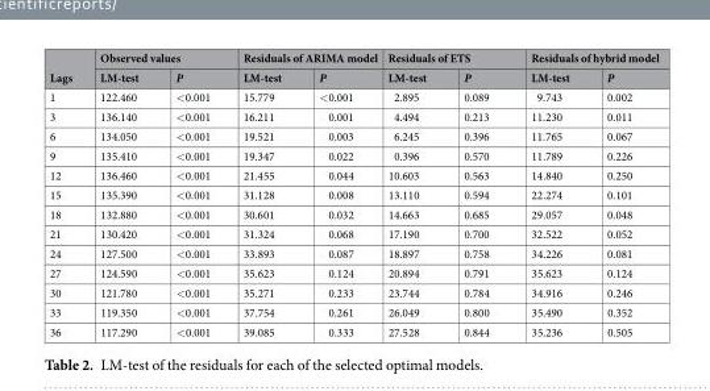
<table><thead><tr><td rowspan="2">Lags</td><td colspan="2">Observed values</td><td colspan="2">Residuals of ARIMA model</td><td colspan="2">Residuals of ETS</td><td colspan="2">Residuals of hybrid model</td></tr><tr><td>LM-test</td><td>P</td><td>LM-test</td><td>P</td><td>LM-test</td><td>P</td><td>LM-test</td><td>P</td></tr></thead><tbody><tr><td>1</td><td>122.460</td><td>&lt;0.001</td><td>15.779</td><td>&lt;0.001</td><td>2.895</td><td>0.089</td><td>9.743</td><td>0.002</td></tr><tr><td>3</td><td>136.140</td><td>&lt;0.001</td><td>16.211</td><td>0.001</td><td>4.494</td><td>0.213</td><td>11.230</td><td>0.011</td></tr><tr><td>6</td><td>134.050</td><td>&lt;0.001</td><td>19.521</td><td>0.003</td><td>6.245</td><td>0.396</td><td>11.765</td><td>0.067</td></tr><tr><td>9</td><td>135.410</td><td>&lt;0.001</td><td>19.347</td><td>0.022</td><td>0.396</td><td>0.570</td><td>11.789</td><td>0.226</td></tr><tr><td>12</td><td>136.460</td><td>&lt;0.001</td><td>21.455</td><td>0.044</td><td>10.603</td><td>0.563</td><td>14.840</td><td>0.250</td></tr><tr><td>15</td><td>135.390</td><td>&lt;0.001</td><td>31.128</td><td>0.008</td><td>13.110</td><td>0.594</td><td>22.274</td><td>0.101</td></tr><tr><td>18</td><td>132.880</td><td>&lt;0.001</td><td>30.601</td><td>0.032</td><td>14.663</td><td>0.685</td><td>29.057</td><td>0.048</td></tr><tr><td>21</td><td>130.420</td><td>&lt;0.001</td><td>31.324</td><td>0.068</td><td>17.190</td><td>0.700</td><td>32.522</td><td>0.052</td></tr><tr><td>24</td><td>127.500</td><td>&lt;0.001</td><td>33.893</td><td>0.087</td><td>18.897</td><td>0.758</td><td>34.226</td><td>0.081</td></tr><tr><td>27</td><td>124.590</td><td>&lt;0.001</td><td>35.623</td><td>0.124</td><td>20.894</td><td>0.791</td><td>35.623</td><td>0.124</td></tr><tr><td>30</td><td>121.780</td><td>&lt;0.001</td><td>35.271</td><td>0.233</td><td>23.744</td><td>0.784</td><td>34.916</td><td>0.246</td></tr><tr><td>33</td><td>119.350</td><td>&lt;0.001</td><td>37.754</td><td>0.261</td><td>26.049</td><td>0.800</td><td>35.490</td><td>0.352</td></tr><tr><td>36</td><td>117.290</td><td>&lt;0.001</td><td>39.085</td><td>0.333</td><td>27.528</td><td>0.844</td><td>35.236</td><td>0.505</td></tr></tbody></table>